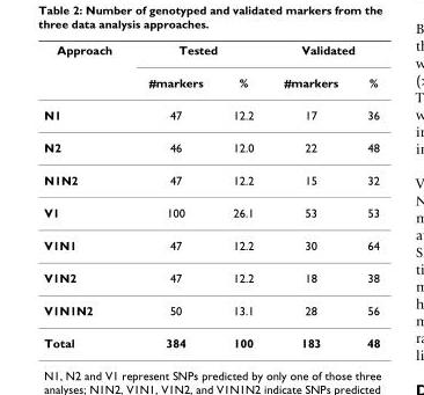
<table><thead><tr><td rowspan="2">Approach</td><td colspan="2">Tested</td><td colspan="2">Validated</td></tr><tr><td>#markers</td><td>%</td><td>#markers</td><td>%</td></tr></thead><tbody><tr><td>N1</td><td>47</td><td>12.2</td><td>17</td><td>36</td></tr><tr><td>N2</td><td>46</td><td>12.0</td><td>22</td><td>48</td></tr><tr><td>N1N2</td><td>47</td><td>12.2</td><td>15</td><td>32</td></tr><tr><td>V1</td><td>100</td><td>26.1</td><td>53</td><td>53</td></tr><tr><td>V1N1</td><td>47</td><td>12.2</td><td>30</td><td>64</td></tr><tr><td>V1N2</td><td>47</td><td>12.2</td><td>18</td><td>38</td></tr><tr><td>V1N1N2</td><td>50</td><td>13.1</td><td>28</td><td>56</td></tr><tr><td>Total</td><td>384</td><td>100</td><td>183</td><td>48</td></tr></tbody></table>